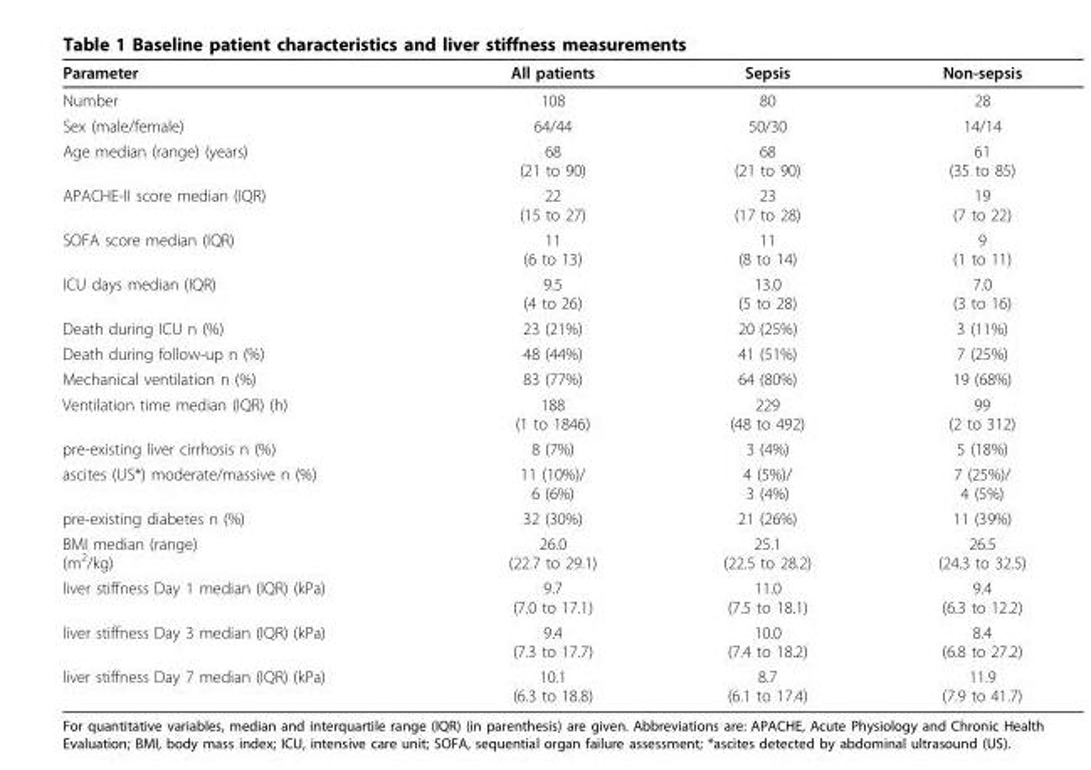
<table><thead><tr><td>Parameter</td><td>All patients</td><td>Sepsis</td><td>Non-sepsis</td></tr></thead><tbody><tr><td>Number</td><td>108</td><td>80</td><td>28</td></tr><tr><td>Sex (male/female)</td><td>64/44</td><td>50/30</td><td>14/14</td></tr><tr><td>Age median (range) (years)</td><td>68 (21 to 90)</td><td>68 (21 to 90)</td><td>61 (35 to 85)</td></tr><tr><td>APACHE-II score median (IQR)</td><td>22 (15 to 27)</td><td>23 (17 to 28)</td><td>19 (7 to 22)</td></tr><tr><td>SOFA score median (IQR)</td><td>11 (6 to 13)</td><td>11 (8 to 14)</td><td>9 (1 to 11)</td></tr><tr><td>ICU days median (IQR)</td><td>9.5 (4 to 26)</td><td>13.0 (5 to 28)</td><td>7.0 (3 to 16)</td></tr><tr><td>Death during ICU n (%)</td><td>23 (21%)</td><td>20 (25%)</td><td>3 (11%)</td></tr><tr><td>Death during follow-up n (%)</td><td>48 (44%)</td><td>41 (51%)</td><td>7 (25%)</td></tr><tr><td>Mechanical ventilation n (%)</td><td>83 (77%)</td><td>64 (80%)</td><td>19 (68%)</td></tr><tr><td>Ventilation time median (IQR) (h)</td><td>188 (1 to 1846)</td><td>229 (48 to 492)</td><td>99 (2 to 312)</td></tr><tr><td>pre-existing liver cirrhosis n (%)</td><td>8 (7%)</td><td>3 (4%)</td><td>5 (18%)</td></tr><tr><td>ascites (US*) moderate/massive n (%)</td><td>11 (10%)/ 6 (6%)</td><td>4 (5%)/ 3 (4%)</td><td>7 (25%)/ 4 (5%)</td></tr><tr><td>pre-existing diabetes n (%)</td><td>32 (30%)</td><td>21 (26%)</td><td>11 (39%)</td></tr><tr><td>BMI median (range) (m<sup>2</sup>/kg)</td><td>26.0 (22.7 to 29.1)</td><td>25.1 (22.5 to 28.2)</td><td>26.5 (24.3 to 32.5)</td></tr><tr><td>liver stiffness Day 1 median (IQR) (kPa)</td><td>9.7 (7.0 to 17.1)</td><td>11.0 (7.5 to 18.1)</td><td>9.4 (6.3 to 12.2)</td></tr><tr><td>liver stiffness Day 3 median (IQR) (kPa)</td><td>9.4 (7.3 to 17.7)</td><td>10.0 (7.4 to 18.2)</td><td>8.4 (6.8 to 27.2)</td></tr><tr><td>liver stiffness Day 7 median (IQR) (kPa)</td><td>10.1 (6.3 to 18.8)</td><td>8.7 (6.1 to 17.4)</td><td>11.9 (7.9 to 41.7)</td></tr></tbody></table>